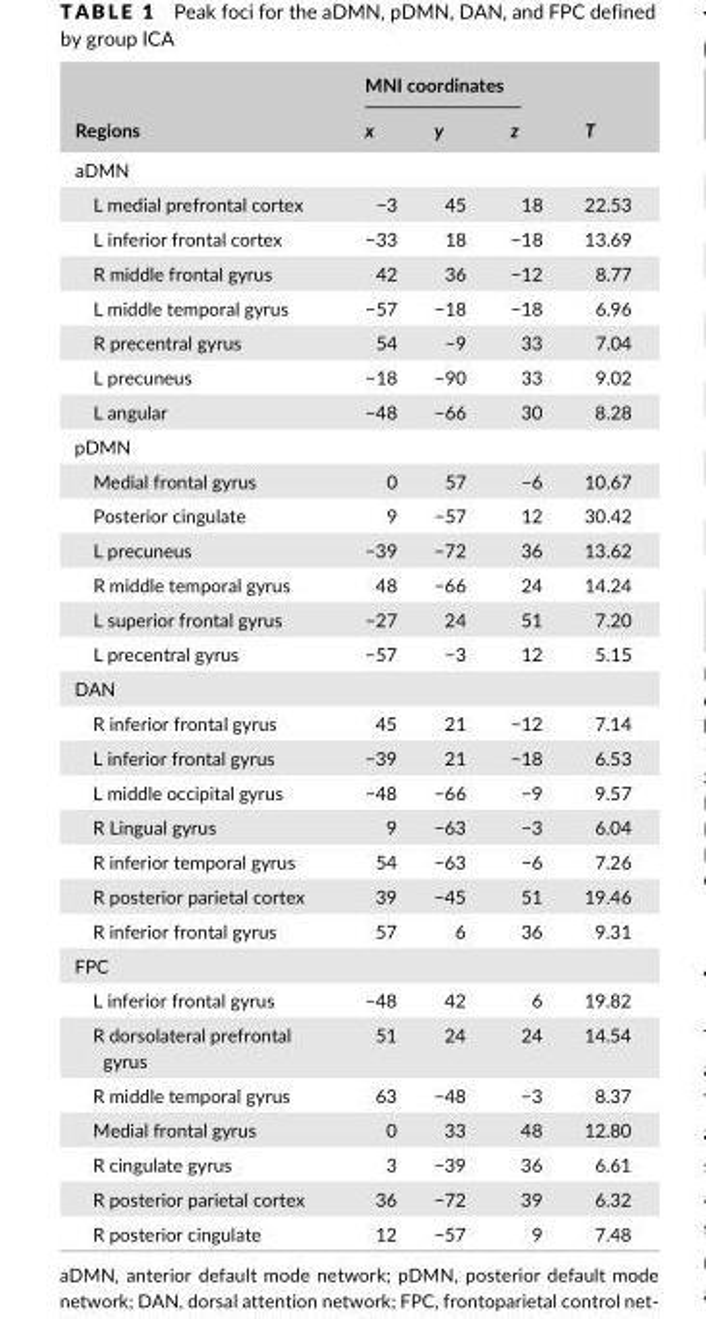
<table><thead><tr><td rowspan="2">Regions</td><td colspan="3">MNI coordinates</td><td rowspan="2">T</td></tr><tr><td>x</td><td>y</td><td>z</td></tr></thead><tbody><tr><td colspan="5">aDMN</td></tr><tr><td>L medial prefrontal cortex</td><td>−3</td><td>45</td><td>18</td><td>22.53</td></tr><tr><td>L inferior frontal cortex</td><td>−33</td><td>18</td><td>−18</td><td>13.69</td></tr><tr><td>R middle frontal gyrus</td><td>42</td><td>36</td><td>−12</td><td>8.77</td></tr><tr><td>L middle temporal gyrus</td><td>−57</td><td>−18</td><td>−18</td><td>6.96</td></tr><tr><td>R precentral gyrus</td><td>54</td><td>−9</td><td>33</td><td>7.04</td></tr><tr><td>L precuneus</td><td>−18</td><td>−90</td><td>33</td><td>9.02</td></tr><tr><td>L angular</td><td>−48</td><td>−66</td><td>30</td><td>8.28</td></tr><tr><td colspan="5">pDMN</td></tr><tr><td>Medial frontal gyrus</td><td>0</td><td>57</td><td>−6</td><td>10.67</td></tr><tr><td>Posterior cingulate</td><td>9</td><td>−57</td><td>12</td><td>30.42</td></tr><tr><td>L precuneus</td><td>−39</td><td>−72</td><td>36</td><td>13.62</td></tr><tr><td>R middle temporal gyrus</td><td>48</td><td>−66</td><td>24</td><td>14.24</td></tr><tr><td>L superior frontal gyrus</td><td>−27</td><td>24</td><td>51</td><td>7.20</td></tr><tr><td>L precentral gyrus</td><td>−57</td><td>−3</td><td>12</td><td>5.15</td></tr><tr><td colspan="5">DAN</td></tr><tr><td>R inferior frontal gyrus</td><td>45</td><td>21</td><td>−12</td><td>7.14</td></tr><tr><td>L inferior frontal gyrus</td><td>−39</td><td>21</td><td>−18</td><td>6.53</td></tr><tr><td>L middle occipital gyrus</td><td>−48</td><td>−66</td><td>−9</td><td>9.57</td></tr><tr><td>R Lingual gyrus</td><td>9</td><td>−63</td><td>−3</td><td>6.04</td></tr><tr><td>R inferior temporal gyrus</td><td>54</td><td>−63</td><td>−6</td><td>7.26</td></tr><tr><td>R posterior parietal cortex</td><td>39</td><td>−45</td><td>51</td><td>19.46</td></tr><tr><td>R inferior frontal gyrus</td><td>57</td><td>6</td><td>36</td><td>9.31</td></tr><tr><td colspan="5">FPC</td></tr><tr><td>L inferior frontal gyrus</td><td>−48</td><td>42</td><td>6</td><td>19.82</td></tr><tr><td>R dorsolateral prefrontal gyrus</td><td>51</td><td>24</td><td>24</td><td>14.54</td></tr><tr><td>R middle temporal gyrus</td><td>63</td><td>−48</td><td>−3</td><td>8.37</td></tr><tr><td>Medial frontal gyrus</td><td>0</td><td>33</td><td>48</td><td>12.80</td></tr><tr><td>R cingulate gyrus</td><td>3</td><td>−39</td><td>36</td><td>6.61</td></tr><tr><td>R posterior parietal cortex</td><td>36</td><td>−72</td><td>39</td><td>6.32</td></tr><tr><td>R posterior cingulate</td><td>12</td><td>−57</td><td>9</td><td>7.48</td></tr></tbody></table>